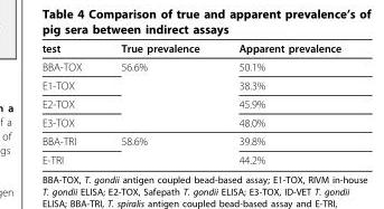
<table><thead><tr><td>test</td><td>True prevalence</td><td>Apparent prevalence</td></tr></thead><tbody><tr><td>BBA-TOX</td><td>56.6%</td><td>50.1%</td></tr><tr><td>E1-TOX</td><td></td><td>38.3%</td></tr><tr><td>E2-TOX</td><td></td><td>45.9%</td></tr><tr><td>E3-TOX</td><td></td><td>48.0%</td></tr><tr><td>BBA-TRI</td><td>58.6%</td><td>39.8%</td></tr><tr><td>E-TRI</td><td></td><td>44.2%</td></tr></tbody></table>